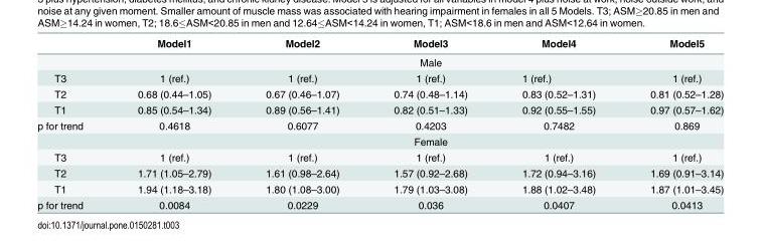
<table><thead><tr><td></td><td>Model1</td><td>Model2</td><td>Model3</td><td>Model4</td><td>Model5</td></tr></thead><tbody><tr><td></td><td colspan="5">Male</td></tr><tr><td>T3</td><td>1 (ref.)</td><td>1 (ref.)</td><td>1 (ref.)</td><td>1 (ref.)</td><td>1 (ref.)</td></tr><tr><td>T2</td><td>0.68 (0.44–1.05)</td><td>0.67 (0.46–1.07)</td><td>0.74 (0.48–1.14)</td><td>0.83 (0.52–1.31)</td><td>0.81 (0.52–1.28)</td></tr><tr><td>T1</td><td>0.85 (0.54–1.34)</td><td>0.89 (0.56–1.41)</td><td>0.82 (0.51–1.33)</td><td>0.92 (0.55–1.55)</td><td>0.97 (0.57–1.62)</td></tr><tr><td rowspan="2">p for trend</td><td>0.4618</td><td>0.6077</td><td>0.4203</td><td>0.7482</td><td>0.869</td></tr><tr><td colspan="5">Female</td></tr><tr><td>T3</td><td>1 (ref.)</td><td>1 (ref.)</td><td>1 (ref.)</td><td>1 (ref.)</td><td>1 (ref.)</td></tr><tr><td>T2</td><td>1.71 (1.05–2.79)</td><td>1.61 (0.98–2.64)</td><td>1.57 (0.92–2.68)</td><td>1.72 (0.94–3.16)</td><td>1.69 (0.91–3.14)</td></tr><tr><td>T1</td><td>1.94 (1.18–3.18)</td><td>1.80 (1.08–3.00)</td><td>1.79 (1.03–3.08)</td><td>1.88 (1.02–3.48)</td><td>1.87 (1.01–3.45)</td></tr><tr><td>p for trend</td><td>0.0084</td><td>0.0229</td><td>0.036</td><td>0.0407</td><td>0.0413</td></tr></tbody></table>